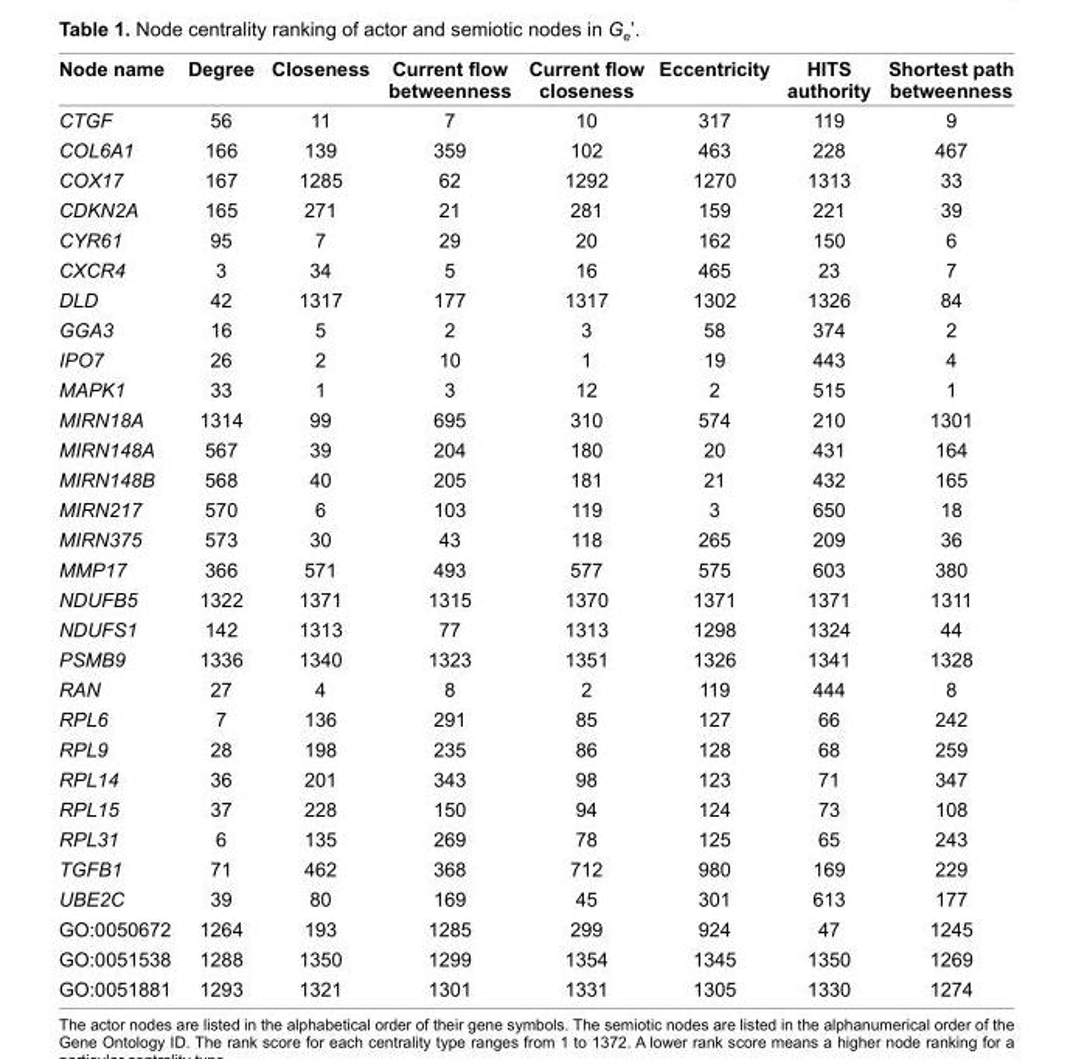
<table><thead><tr><td>Node name</td><td>Degree</td><td>Closeness</td><td>Current fl ow betweenness</td><td>Current fl ow closeness</td><td>Eccentricity</td><td>HITS authority</td><td>Shortest path betweenness</td></tr></thead><tbody><tr><td>CTGF</td><td>56</td><td>11</td><td>7</td><td>10</td><td>317</td><td>119</td><td>9</td></tr><tr><td>COL6A1</td><td>166</td><td>139</td><td>359</td><td>102</td><td>463</td><td>228</td><td>467</td></tr><tr><td>COX17</td><td>167</td><td>1285</td><td>62</td><td>1292</td><td>1270</td><td>1313</td><td>33</td></tr><tr><td>CDKN2A</td><td>165</td><td>271</td><td>21</td><td>281</td><td>159</td><td>221</td><td>39</td></tr><tr><td>CYR61</td><td>95</td><td>7</td><td>29</td><td>20</td><td>162</td><td>150</td><td>6</td></tr><tr><td>CXCR4</td><td>3</td><td>34</td><td>5</td><td>16</td><td>465</td><td>23</td><td>7</td></tr><tr><td>DLD</td><td>42</td><td>1317</td><td>177</td><td>1317</td><td>1302</td><td>1326</td><td>84</td></tr><tr><td>GGA3</td><td>16</td><td>5</td><td>2</td><td>3</td><td>58</td><td>374</td><td>2</td></tr><tr><td>IPO7</td><td>26</td><td>2</td><td>10</td><td>1</td><td>19</td><td>443</td><td>4</td></tr><tr><td>MAPK1</td><td>33</td><td>1</td><td>3</td><td>12</td><td>2</td><td>515</td><td>1</td></tr><tr><td>MIRN18A</td><td>1314</td><td>99</td><td>695</td><td>310</td><td>574</td><td>210</td><td>1301</td></tr><tr><td>MIRN148A</td><td>567</td><td>39</td><td>204</td><td>180</td><td>20</td><td>431</td><td>164</td></tr><tr><td>MIRN148B</td><td>568</td><td>40</td><td>205</td><td>181</td><td>21</td><td>432</td><td>165</td></tr><tr><td>MIRN217</td><td>570</td><td>6</td><td>103</td><td>119</td><td>3</td><td>650</td><td>18</td></tr><tr><td>MIRN375</td><td>573</td><td>30</td><td>43</td><td>118</td><td>265</td><td>209</td><td>36</td></tr><tr><td>MMP17</td><td>366</td><td>571</td><td>493</td><td>577</td><td>575</td><td>603</td><td>380</td></tr><tr><td>NDUFB5</td><td>1322</td><td>1371</td><td>1315</td><td>1370</td><td>1371</td><td>1371</td><td>1311</td></tr><tr><td>NDUFS1</td><td>142</td><td>1313</td><td>77</td><td>1313</td><td>1298</td><td>1324</td><td>44</td></tr><tr><td>PSMB9</td><td>1336</td><td>1340</td><td>1323</td><td>1351</td><td>1326</td><td>1341</td><td>1328</td></tr><tr><td>RAN</td><td>27</td><td>4</td><td>8</td><td>2</td><td>119</td><td>444</td><td>8</td></tr><tr><td>RPL6</td><td>7</td><td>136</td><td>291</td><td>85</td><td>127</td><td>66</td><td>242</td></tr><tr><td>RPL9</td><td>28</td><td>198</td><td>235</td><td>86</td><td>128</td><td>68</td><td>259</td></tr><tr><td>RPL14</td><td>36</td><td>201</td><td>343</td><td>98</td><td>123</td><td>71</td><td>347</td></tr><tr><td>RPL15</td><td>37</td><td>228</td><td>150</td><td>94</td><td>124</td><td>73</td><td>108</td></tr><tr><td>RPL31</td><td>6</td><td>135</td><td>269</td><td>78</td><td>125</td><td>65</td><td>243</td></tr><tr><td>TGFB1</td><td>71</td><td>462</td><td>368</td><td>712</td><td>980</td><td>169</td><td>229</td></tr><tr><td>UBE2C</td><td>39</td><td>80</td><td>169</td><td>45</td><td>301</td><td>613</td><td>177</td></tr><tr><td>GO:0050672</td><td>1264</td><td>193</td><td>1285</td><td>299</td><td>924</td><td>47</td><td>1245</td></tr><tr><td>GO:0051538</td><td>1288</td><td>1350</td><td>1299</td><td>1354</td><td>1345</td><td>1350</td><td>1269</td></tr><tr><td>GO:0051881</td><td>1293</td><td>1321</td><td>1301</td><td>1331</td><td>1305</td><td>1330</td><td>1274</td></tr></tbody></table>